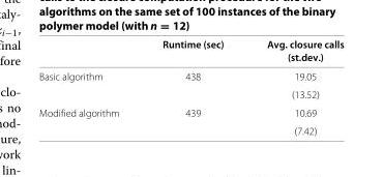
<table><thead><tr><td rowspan="2"></td><td rowspan="2">Runtime (sec)</td><td rowspan="2">Avg. closure calls (st.dev.)</td></tr><tr></tr></thead><tbody><tr><td rowspan="2">Basic algorithm</td><td>438</td><td>19.05</td></tr><tr><td></td><td>(13.52)</td></tr><tr><td rowspan="2">Modified algorithm</td><td>439</td><td>10.69</td></tr><tr><td></td><td>(7.42)</td></tr></tbody></table>